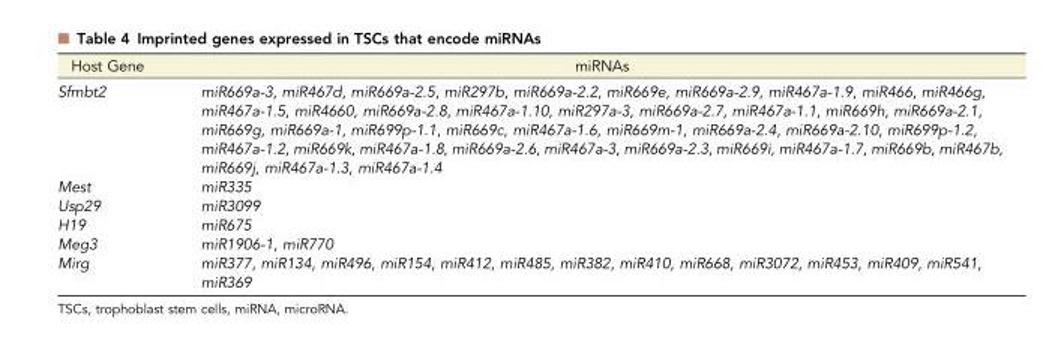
<table><thead><tr><td>Host Gene</td><td>miRNAs</td></tr></thead><tbody><tr><td>Sfmbt2</td><td>miR669a-3, miR467d, miR669a-2.5, miR297b, miR669a-2.2, miR669e, miR669a-2.9, miR467a-1.9, miR466, miR466g, miR467a-1.5, miR4660, miR669a-2.8, miR467a-1.10, miR297a-3, miR669a-2.7, miR467a-1.1, miR669h, miR669a-2.1, miR669g, miR669a-1, miR699p-1.1, miR669c, miR467a-1.6, miR669m-1, miR669a-2.4, miR669a-2.10, miR699p-1.2, miR467a-1.2, miR669k, miR467a-1.8, miR669a-2.6, miR467a-3, miR669a-2.3, miR669i, miR467a-1.7, miR669b, miR467b, miR669j, miR467a-1.3, miR467a-1.4</td></tr><tr><td>Mest</td><td>miR335</td></tr><tr><td>Usp29</td><td>miR3099</td></tr><tr><td>H19</td><td>miR675</td></tr><tr><td>Meg3</td><td>miR1906-1, miR770</td></tr><tr><td>Mirg</td><td>miR377, miR134, miR496, miR154, miR412, miR485, miR382, miR410, miR668, miR3072, miR453, miR409, miR541, miR369</td></tr></tbody></table>